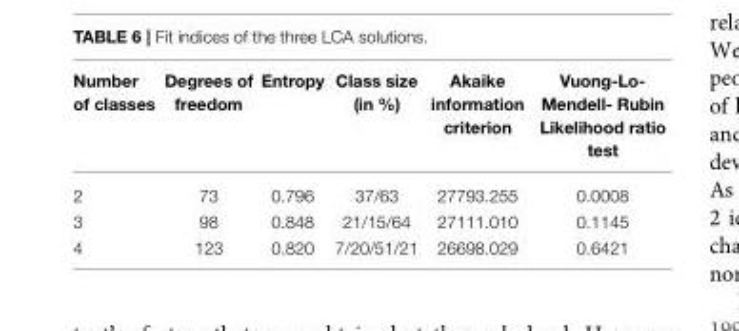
<table><thead><tr><td>Number of classes</td><td>Degrees of freedom</td><td>Entropy</td><td>Class size (in %)</td><td>Akaike information criterion</td><td>Vuong-Lo- Mendell- Rubin Likelihood ratio test</td></tr></thead><tbody><tr><td>2</td><td>73</td><td>0.796</td><td>37/63</td><td>27793.255</td><td>0.0008</td></tr><tr><td>3</td><td>98</td><td>0.848</td><td>21/15/64</td><td>27111.010</td><td>0.1145</td></tr><tr><td>4</td><td>123</td><td>0.820</td><td>7/20/51/21</td><td>26698.029</td><td>0.6421</td></tr></tbody></table>